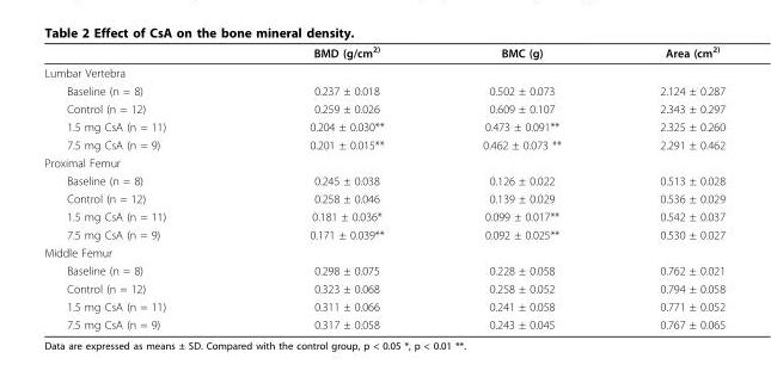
<table><thead><tr><td></td><td>BMD (g/cm<sup>2)</sup></td><td>BMC (g)</td><td>Area (cm<sup>2)</sup></td></tr></thead><tbody><tr><td colspan="4">Lumbar Vertebra</td></tr><tr><td>Baseline (n = 8)</td><td>0.237 ± 0.018</td><td>0.502 ± 0.073</td><td>2.124 ± 0.287</td></tr><tr><td>Control (n = 12)</td><td>0.259 ± 0.026</td><td>0.609 ± 0.107</td><td>2.343 ± 0.297</td></tr><tr><td>1.5 mg CsA (n = 11)</td><td>0.204 ± 0.030**</td><td>0.473 ± 0.091**</td><td>2.325 ± 0.260</td></tr><tr><td>7.5 mg CsA (n = 9)</td><td>0.201 ± 0.015**</td><td>0.462 ± 0.073 **</td><td>2.291 ± 0.462</td></tr><tr><td colspan="4">Proximal Femur</td></tr><tr><td>Baseline (n = 8)</td><td>0.245 ± 0.038</td><td>0.126 ± 0.022</td><td>0.513 ± 0.028</td></tr><tr><td>Control (n = 12)</td><td>0.258 ± 0.046</td><td>0.139 ± 0.029</td><td>0.536 ± 0.029</td></tr><tr><td>1.5 mg CsA (n = 11)</td><td>0.181 ± 0.036*</td><td>0.099 ± 0.017**</td><td>0.542 ± 0.037</td></tr><tr><td>7.5 mg CsA (n = 9)</td><td>0.171 ± 0.039**</td><td>0.092 ± 0.025**</td><td>0.530 ± 0.027</td></tr><tr><td colspan="4">Middle Femur</td></tr><tr><td>Baseline (n = 8)</td><td>0.298 ± 0.075</td><td>0.228 ± 0.058</td><td>0.762 ± 0.021</td></tr><tr><td>Control (n = 12)</td><td>0.323 ± 0.068</td><td>0.258 ± 0.052</td><td>0.794 ± 0.058</td></tr><tr><td>1.5 mg CsA (n = 11)</td><td>0.311 ± 0.066</td><td>0.241 ± 0.058</td><td>0.771 ± 0.052</td></tr><tr><td>7.5 mg CsA (n = 9)</td><td>0.317 ± 0.058</td><td>0.243 ± 0.045</td><td>0.767 ± 0.065</td></tr></tbody></table>